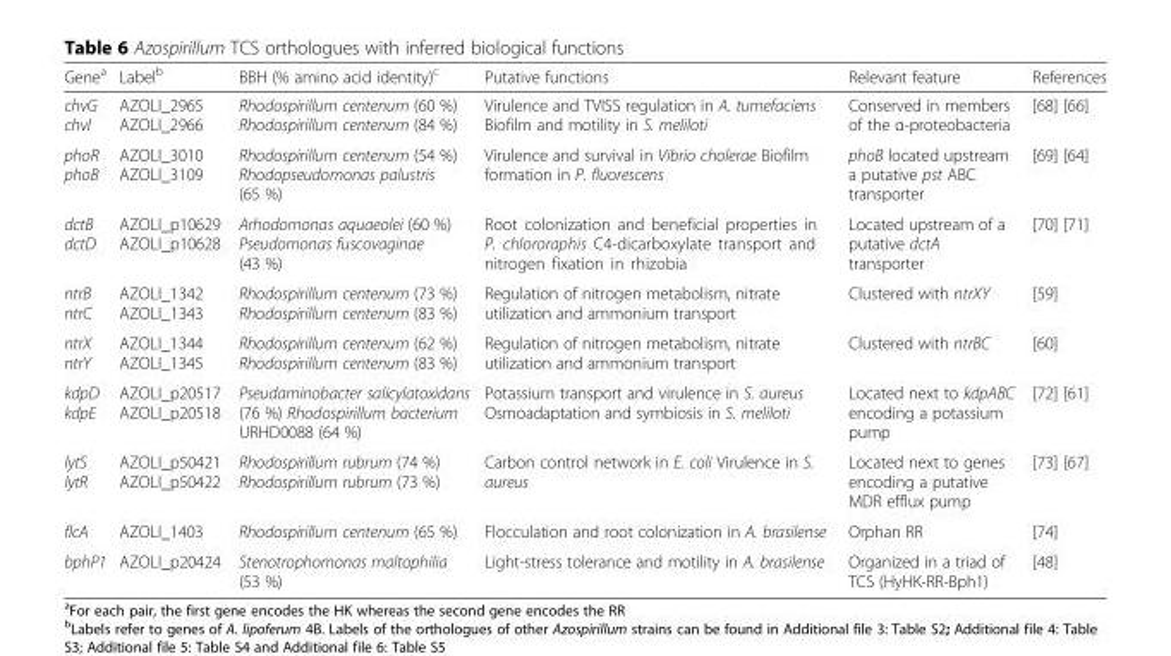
<table><thead><tr><td>Gene<sup>a</sup></td><td>Label<sup>b</sup></td><td>BBH (% amino acid identity)<sup>c</sup></td><td>Putative functions</td><td>Relevant feature</td><td>References</td></tr></thead><tbody><tr><td>chvG chvI</td><td>AZOLI_2965 AZOLI_2966</td><td>Rhodospirillum centenum (60 %) Rhodospirillum centenum (84 %)</td><td>Virulence and TVISS regulation in A. tumefaciens Biofilm and motility in S. meliloti</td><td>Conserved in members of the α-proteobacteria</td><td>[68] [66]</td></tr><tr><td>phoR phoB</td><td>AZOLI_3010 AZOLI_3109</td><td>Rhodospirillum centenum (54 %) Rhodopseudomonas palustris (65 %)</td><td>Virulence and survival in Vibrio cholerae Biofilm formation in P. fluorescens</td><td>phoB located upstream a putative pst ABC transporter</td><td>[69] [64]</td></tr><tr><td>dctB dctD</td><td>AZOLI_p10629 AZOLI_p10628</td><td>Arhodomonas aquaeolei (60 %) Pseudomonas fuscovaginae (43 %)</td><td>Root colonization and beneficial properties in P. chlororaphis C4-dicarboxylate transport and nitrogen fixation in rhizobia</td><td>Located upstream of a putative dctA transporter</td><td>[70] [71]</td></tr><tr><td>ntrB ntrC</td><td>AZOLI_1342 AZOLI_1343</td><td>Rhodospirillum centenum (73 %) Rhodospirillum centenum (83 %)</td><td>Regulation of nitrogen metabolism, nitrate utilization and ammonium transport</td><td>Clustered with ntrXY</td><td>[59]</td></tr><tr><td>ntrX ntrY</td><td>AZOLI_1344 AZOLI_1345</td><td>Rhodospirillum centenum (62 %) Rhodospirillum centenum (83 %)</td><td>Regulation of nitrogen metabolism, nitrate utilization and ammonium transport</td><td>Clustered with ntrBC</td><td>[60]</td></tr><tr><td>kdpD kdpE</td><td>AZOLI_p20517 AZOLI_p20518</td><td>Pseudaminobacter salicylatoxidans (76 %) Rhodospirillum bacterium URHD0088 (64 %)</td><td>Potassium transport and virulence in S. aureus Osmoadaptation and symbiosis in S. meliloti</td><td>Located next to kdpABC encoding a potassium pump</td><td>[72] [61]</td></tr><tr><td>lytS lytR</td><td>AZOLI_p50421 AZOLI_p50422</td><td>Rhodospirillum rubrum (74 %) Rhodospirillum rubrum (73 %)</td><td>Carbon control network in E. coli Virulence in S. aureus</td><td>Located next to genes encoding a putative MDR efflux pump</td><td>[73] [67]</td></tr><tr><td>flcA</td><td>AZOLI_1403</td><td>Rhodospirillum centenum (65 %)</td><td>Flocculation and root colonization in A. brasilense</td><td>Orphan RR</td><td>[74]</td></tr><tr><td>bphP1</td><td>AZOLI_p20424</td><td>Stenotrophomonas maltophilia (53 %)</td><td>Light-stress tolerance and motility in A. brasilense</td><td>Organized in a triad of TCS (HyHK-RR-Bph1)</td><td>[48]</td></tr></tbody></table>